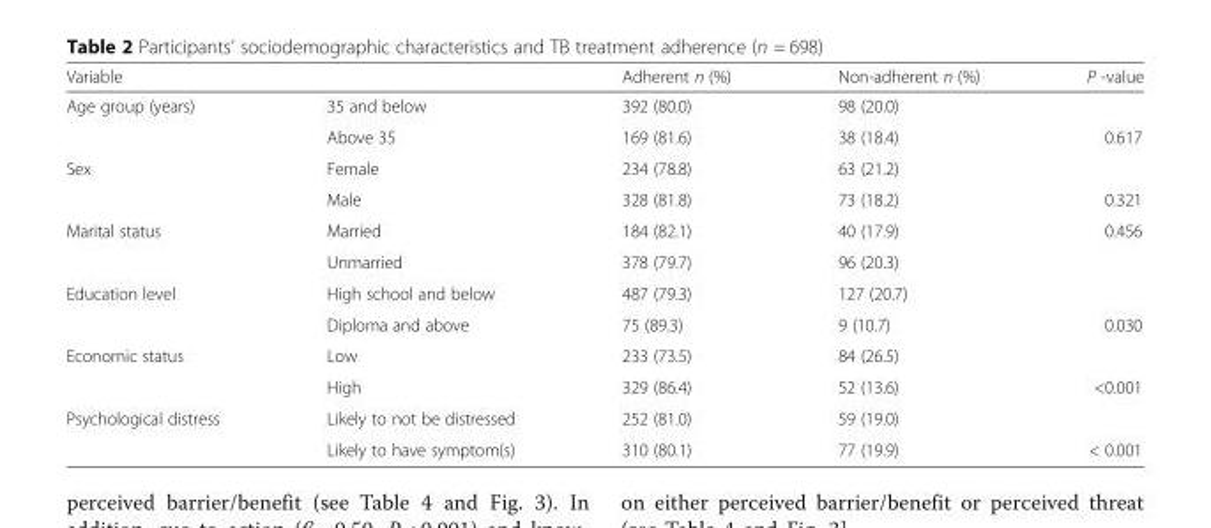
<table><thead><tr><td>Variable</td><td></td><td>Adherent n (%)</td><td>Non-adherent n (%)</td><td>P -value</td></tr></thead><tbody><tr><td rowspan="2">Age group (years)</td><td>35 and below</td><td>392 (80.0)</td><td>98 (20.0)</td><td></td></tr><tr><td>Above 35</td><td>169 (81.6)</td><td>38 (18.4)</td><td>0.617</td></tr><tr><td rowspan="2">Sex</td><td>Female</td><td>234 (78.8)</td><td>63 (21.2)</td><td></td></tr><tr><td>Male</td><td>328 (81.8)</td><td>73 (18.2)</td><td>0.321</td></tr><tr><td rowspan="2">Marital status</td><td>Married</td><td>184 (82.1)</td><td>40 (17.9)</td><td>0.456</td></tr><tr><td>Unmarried</td><td>378 (79.7)</td><td>96 (20.3)</td><td></td></tr><tr><td rowspan="2">Education level</td><td>High school and below</td><td>487 (79.3)</td><td>127 (20.7)</td><td></td></tr><tr><td>Diploma and above</td><td>75 (89.3)</td><td>9 (10.7)</td><td>0.030</td></tr><tr><td rowspan="2">Economic status</td><td>Low</td><td>233 (73.5)</td><td>84 (26.5)</td><td></td></tr><tr><td>High</td><td>329 (86.4)</td><td>52 (13.6)</td><td>&lt;0.001</td></tr><tr><td rowspan="2">Psychological distress</td><td>Likely to not be distressed</td><td>252 (81.0)</td><td>59 (19.0)</td><td></td></tr><tr><td>Likely to have symptom(s)</td><td>310 (80.1)</td><td>77 (19.9)</td><td>&lt; 0.001</td></tr></tbody></table>